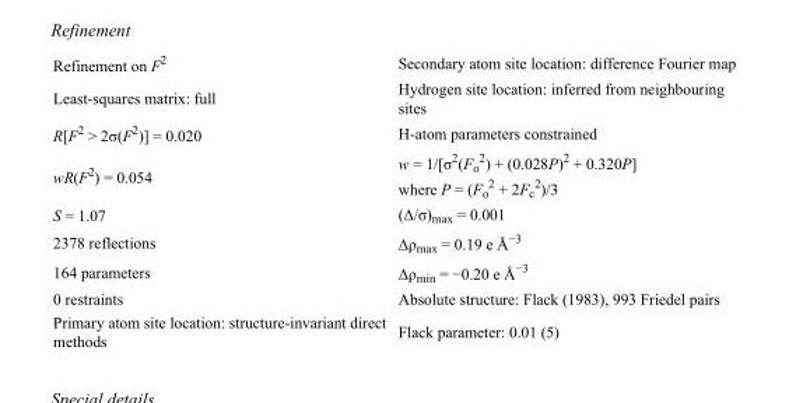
<table><tbody><tr><td>Refinement on F<sup>2</sup></td><td>Secondary atom site location: difference Fourier map</td></tr><tr><td>Least-squares matrix: full</td><td>Hydrogen site location: inferred from neighbouring sites</td></tr><tr><td>R[F<sup>2</sup> &gt; 2σ(F<sup>2</sup>)] = 0.020</td><td>H-atom parameters constrained</td></tr><tr><td>wR(F<sup>2</sup>) = 0.054</td><td>w = 1/[σ<sup>2</sup>(F<sub>o</sub> <sup>2</sup>) + (0.028P)<sup>2</sup> + 0.320P] where P = (F<sub>o</sub> <sup>2</sup> + 2F<sub>c</sub> <sup>2</sup>)/3</td></tr><tr><td>S = 1.07</td><td>(Δ/σ)<sub>max</sub> = 0.001</td></tr><tr><td>2378 reflections</td><td>Δρ<sub>max</sub> = 0.19 e Å<sup>−3</sup></td></tr><tr><td>164 parameters</td><td>Δρ<sub>min</sub> = −0.20 e Å<sup>−3</sup></td></tr><tr><td>0 restraints</td><td>Absolute structure: Flack (1983), 993 Friedel pairs</td></tr><tr><td>Primary atom site location: structure-invariant direct methods</td><td>Flack parameter: 0.01 (5)</td></tr></tbody></table>